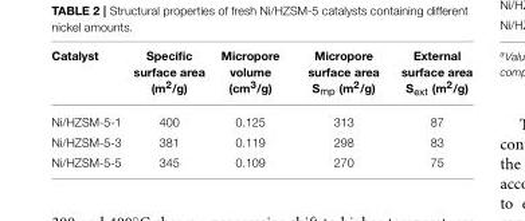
<table><thead><tr><td>Catalyst</td><td>Specific surface area (m<sup>2</sup>/g)</td><td>Micropore volume (cm<sup>3</sup>/g)</td><td>Micropore surface area S<sub>mp</sub> (m<sup>2</sup>/g)</td><td>External surface area S<sub>ext</sub> (m<sup>2</sup>/g)</td></tr></thead><tbody><tr><td>Ni/HZSM-5-1</td><td>400</td><td>0.125</td><td>313</td><td>87</td></tr><tr><td>Ni/HZSM-5-3</td><td>381</td><td>0.119</td><td>298</td><td>83</td></tr><tr><td>Ni/HZSM-5-5</td><td>345</td><td>0.109</td><td>270</td><td>75</td></tr></tbody></table>